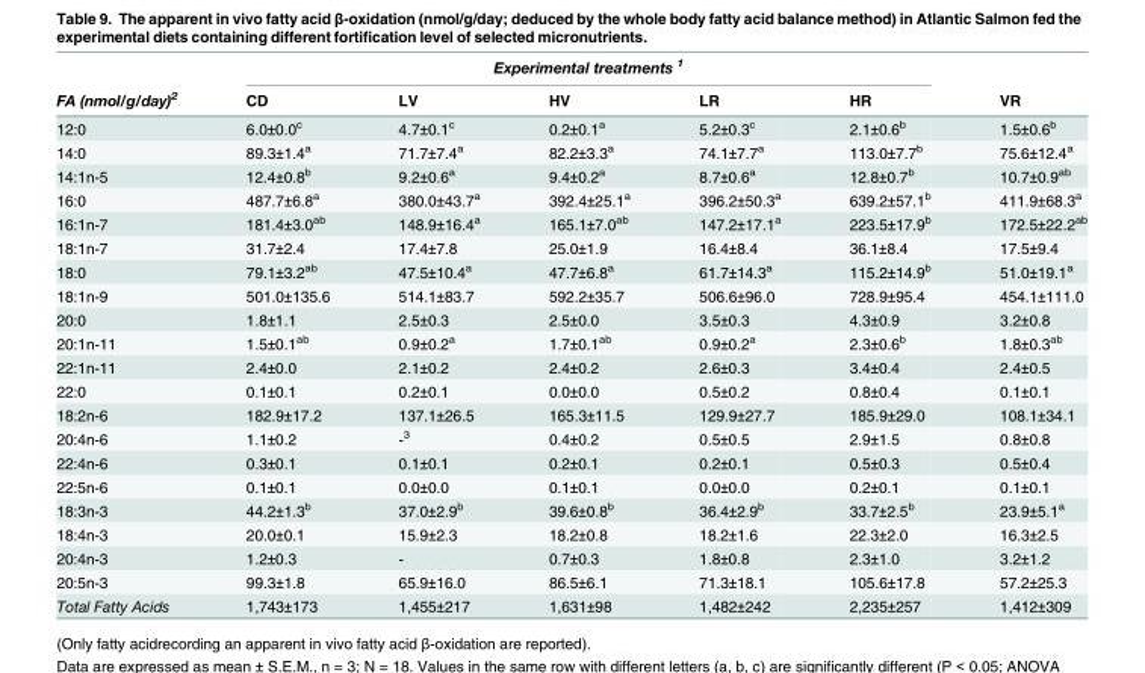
<table><thead><tr><td rowspan="2">FA (nmol/g/day)<sup>2</sup></td><td colspan="5">Experimental treatments <sup>1</sup></td><td rowspan="2">VR</td></tr><tr><td>CD</td><td>LV</td><td>HV</td><td>LR</td><td>HR</td></tr></thead><tbody><tr><td>12:0</td><td>6.0±0.0<sup>c</sup></td><td>4.7±0.1<sup>c</sup></td><td>0.2±0.1<sup>a</sup></td><td>5.2±0.3<sup>c</sup></td><td>2.1±0.6<sup>b</sup></td><td>1.5±0.6<sup>b</sup></td></tr><tr><td>14:0</td><td>89.3±1.4<sup>a</sup></td><td>71.7±7.4<sup>a</sup></td><td>82.2±3.3<sup>a</sup></td><td>74.1±7.7<sup>a</sup></td><td>113.0±7.7<sup>b</sup></td><td>75.6±12.4<sup>a</sup></td></tr><tr><td>14:1n-5</td><td>12.4±0.8<sup>b</sup></td><td>9.2±0.6<sup>a</sup></td><td>9.4±0.2<sup>a</sup></td><td>8.7±0.6<sup>a</sup></td><td>12.8±0.7<sup>b</sup></td><td>10.7±0.9<sup>ab</sup></td></tr><tr><td>16:0</td><td>487.7±6.8<sup>a</sup></td><td>380.0±43.7<sup>a</sup></td><td>392.4±25.1<sup>a</sup></td><td>396.2±50.3<sup>a</sup></td><td>639.2±57.1<sup>b</sup></td><td>411.9±68.3<sup>a</sup></td></tr><tr><td>16:1n-7</td><td>181.4±3.0<sup>ab</sup></td><td>148.9±16.4<sup>a</sup></td><td>165.1±7.0<sup>ab</sup></td><td>147.2±17.1<sup>a</sup></td><td>223.5±17.9<sup>b</sup></td><td>172.5±22.2<sup>ab</sup></td></tr><tr><td>18:1n-7</td><td>31.7±2.4</td><td>17.4±7.8</td><td>25.0±1.9</td><td>16.4±8.4</td><td>36.1±8.4</td><td>17.5±9.4</td></tr><tr><td>18:0</td><td>79.1±3.2<sup>ab</sup></td><td>47.5±10.4<sup>a</sup></td><td>47.7±6.8<sup>a</sup></td><td>61.7±14.3<sup>a</sup></td><td>115.2±14.9<sup>b</sup></td><td>51.0±19.1<sup>a</sup></td></tr><tr><td>18:1n-9</td><td>501.0±135.6</td><td>514.1±83.7</td><td>592.2±35.7</td><td>506.6±96.0</td><td>728.9±95.4</td><td>454.1±111.0</td></tr><tr><td>20:0</td><td>1.8±1.1</td><td>2.5±0.3</td><td>2.5±0.0</td><td>3.5±0.3</td><td>4.3±0.9</td><td>3.2±0.8</td></tr><tr><td>20:1n-11</td><td>1.5±0.1<sup>ab</sup></td><td>0.9±0.2<sup>a</sup></td><td>1.7±0.1<sup>ab</sup></td><td>0.9±0.2<sup>a</sup></td><td>2.3±0.6<sup>b</sup></td><td>1.8±0.3<sup>ab</sup></td></tr><tr><td>22:1n-11</td><td>2.4±0.0</td><td>2.1±0.2</td><td>2.4±0.2</td><td>2.6±0.3</td><td>3.4±0.4</td><td>2.4±0.5</td></tr><tr><td>22:0</td><td>0.1±0.1</td><td>0.2±0.1</td><td>0.0±0.0</td><td>0.5±0.2</td><td>0.8±0.4</td><td>0.1±0.1</td></tr><tr><td>18:2n-6</td><td>182.9±17.2</td><td>137.1±26.5</td><td>165.3±11.5</td><td>129.9±27.7</td><td>185.9±29.0</td><td>108.1±34.1</td></tr><tr><td>20:4n-6</td><td>1.1±0.2</td><td>-<sup>3</sup></td><td>0.4±0.2</td><td>0.5±0.5</td><td>2.9±1.5</td><td>0.8±0.8</td></tr><tr><td>22:4n-6</td><td>0.3±0.1</td><td>0.1±0.1</td><td>0.2±0.1</td><td>0.2±0.1</td><td>0.5±0.3</td><td>0.5±0.4</td></tr><tr><td>22:5n-6</td><td>0.1±0.1</td><td>0.0±0.0</td><td>0.1±0.1</td><td>0.0±0.0</td><td>0.2±0.1</td><td>0.1±0.1</td></tr><tr><td>18:3n-3</td><td>44.2±1.3<sup>b</sup></td><td>37.0±2.9<sup>b</sup></td><td>39.6±0.8<sup>b</sup></td><td>36.4±2.9<sup>b</sup></td><td>33.7±2.5<sup>b</sup></td><td>23.9±5.1<sup>a</sup></td></tr><tr><td>18:4n-3</td><td>20.0±0.1</td><td>15.9±2.3</td><td>18.2±0.8</td><td>18.2±1.6</td><td>22.3±2.0</td><td>16.3±2.5</td></tr><tr><td>20:4n-3</td><td>1.2±0.3</td><td>-</td><td>0.7±0.3</td><td>1.8±0.8</td><td>2.3±1.0</td><td>3.2±1.2</td></tr><tr><td>20:5n-3</td><td>99.3±1.8</td><td>65.9±16.0</td><td>86.5±6.1</td><td>71.3±18.1</td><td>105.6±17.8</td><td>57.2±25.3</td></tr><tr><td>Total Fatty Acids</td><td>1,743±173</td><td>1,455±217</td><td>1,631±98</td><td>1,482±242</td><td>2,235±257</td><td>1,412±309</td></tr></tbody></table>